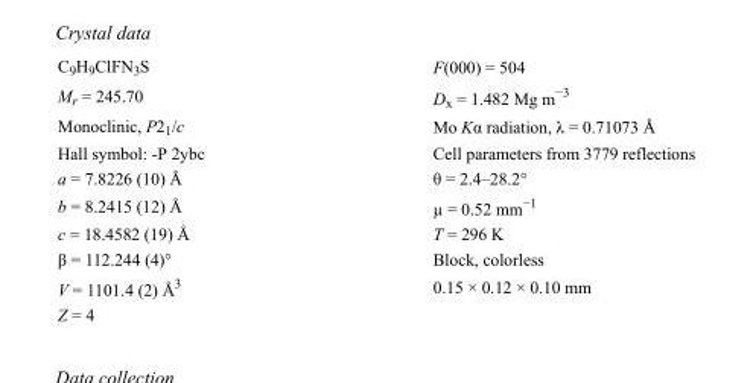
<table><tbody><tr><td>C<sub>9</sub>H<sub>9</sub>ClFN<sub>3</sub>S</td><td>F(000) = 504</td></tr><tr><td>M<sub>r</sub> = 245.70</td><td>D<sub>x</sub> = 1.482 Mg m<sup>−3</sup></td></tr><tr><td>Monoclinic, P2<sub>1</sub>/c</td><td>Mo Kα radiation, λ = 0.71073 Å</td></tr><tr><td>Hall symbol: -P 2ybc</td><td>Cell parameters from 3779 reflections</td></tr><tr><td>a = 7.8226 (10) Å</td><td>θ = 2.4–28.2°</td></tr><tr><td>b = 8.2415 (12) Å</td><td>µ = 0.52 mm<sup>−1</sup></td></tr><tr><td>c = 18.4582 (19) Å</td><td>T = 296 K</td></tr><tr><td>β = 112.244 (4)°</td><td>Block, colorless</td></tr><tr><td>V = 1101.4 (2) Å<sup>3</sup></td><td>0.15 × 0.12 × 0.10 mm</td></tr><tr><td>Z = 4</td><td></td></tr></tbody></table>